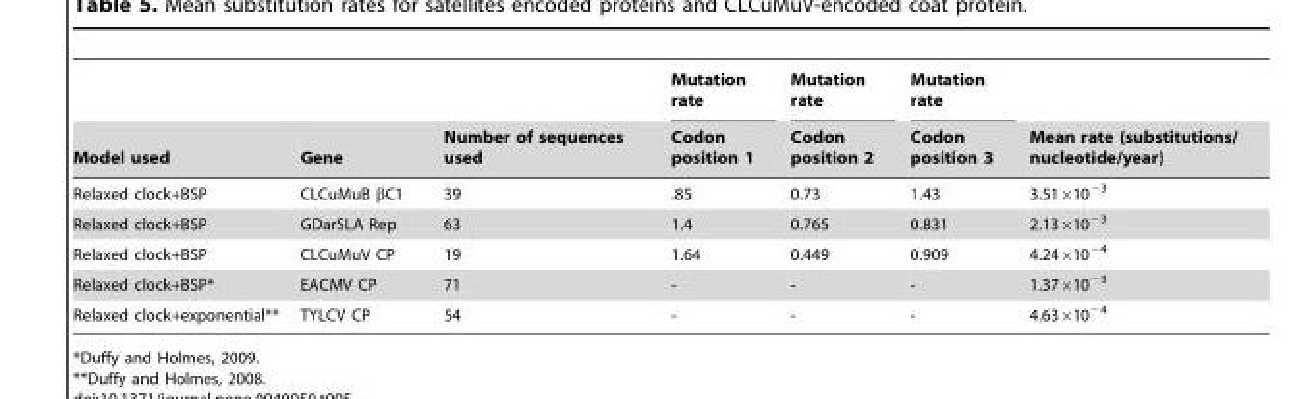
<table><thead><tr><td rowspan="2">Model used</td><td rowspan="2">Gene</td><td rowspan="2">Number of sequences used</td><td rowspan="2">Mutation rate Codon position 1</td><td rowspan="2">Mutation rate Codon position 2</td><td rowspan="2">Mutation rate Codon position 3</td><td rowspan="2">Mean rate (substitutions/ nucleotide/year)</td></tr><tr></tr></thead><tbody><tr><td>Relaxed clock+BSP</td><td>CLCuMuB βC1</td><td>39</td><td>.85</td><td>0.73</td><td>1.43</td><td>3.51×10<sup>−3</sup></td></tr><tr><td>Relaxed clock+BSP</td><td>GDarSLA Rep</td><td>63</td><td>1.4</td><td>0.765</td><td>0.831</td><td>2.13×10<sup>−3</sup></td></tr><tr><td>Relaxed clock+BSP</td><td>CLCuMuV CP</td><td>19</td><td>1.64</td><td>0.449</td><td>0.909</td><td>4.24×10<sup>−4</sup></td></tr><tr><td>Relaxed clock+BSP*</td><td>EACMV CP</td><td>71</td><td>-</td><td>-</td><td>-</td><td>1.37×10<sup>−3</sup></td></tr><tr><td>Relaxed clock+exponential**</td><td>TYLCV CP</td><td>54</td><td>-</td><td>-</td><td>-</td><td>4.63×10<sup>−4</sup></td></tr></tbody></table>